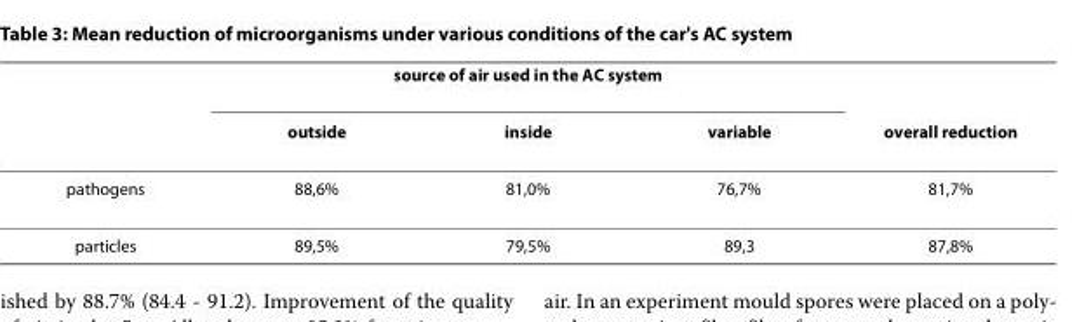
<table><thead><tr><td rowspan="2"></td><td colspan="3">source of air used in the AC system</td><td rowspan="2">overall reduction</td></tr><tr><td>outside</td><td>inside</td><td>variable</td></tr></thead><tbody><tr><td>pathogens</td><td>88,6%</td><td>81,0%</td><td>76,7%</td><td>81,7%</td></tr><tr><td>particles</td><td>89,5%</td><td>79,5%</td><td>89,3</td><td>87,8%</td></tr></tbody></table>